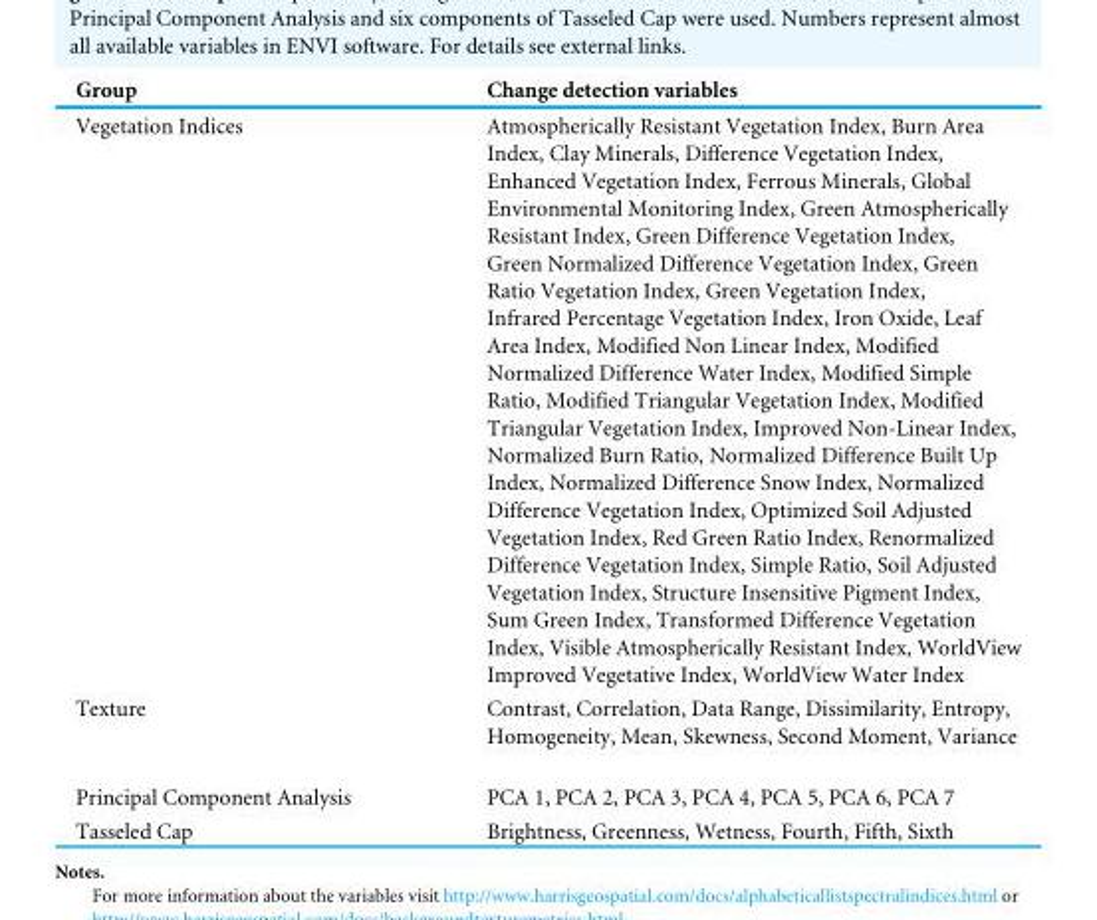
<table><thead><tr><td>Group</td><td>Change detection variables</td></tr></thead><tbody><tr><td>Vegetation Indices</td><td>Atmospherically Resistant Vegetation Index, Burn Area Index, Clay Minerals, Difference Vegetation Index, Enhanced Vegetation Index, Ferrous Minerals, Global Environmental Monitoring Index, Green Atmospherically Resistant Index, Green Difference Vegetation Index, Green Normalized Difference Vegetation Index, Green Ratio Vegetation Index, Green Vegetation Index, Infrared Percentage Vegetation Index, Iron Oxide, Leaf Area Index, Modified Non Linear Index, Modified Normalized Difference Water Index, Modified Simple Ratio, Modified Triangular Vegetation Index, Modified Triangular Vegetation Index, Improved Non-Linear Index, Normalized Burn Ratio, Normalized Difference Built Up Index, Normalized Difference Snow Index, Normalized Difference Vegetation Index, Optimized Soil Adjusted Vegetation Index, Red Green Ratio Index, Renormalized Difference Vegetation Index, Simple Ratio, Soil Adjusted Vegetation Index, Structure Insensitive Pigment Index, Sum Green Index, Transformed Difference Vegetation Index, Visible Atmospherically Resistant Index, WorldView Improved Vegetative Index, WorldView Water Index</td></tr><tr><td>Texture</td><td>Contrast, Correlation, Data Range, Dissimilarity, Entropy, Homogeneity, Mean, Skewness, Second Moment, Variance</td></tr><tr><td>Principal Component Analysis</td><td>PCA 1, PCA 2, PCA 3, PCA 4, PCA 5, PCA 6, PCA 7</td></tr><tr><td>Tasseled Cap</td><td>Brightness, Greenness, Wetness, Fourth, Fifth, Sixth</td></tr></tbody></table>